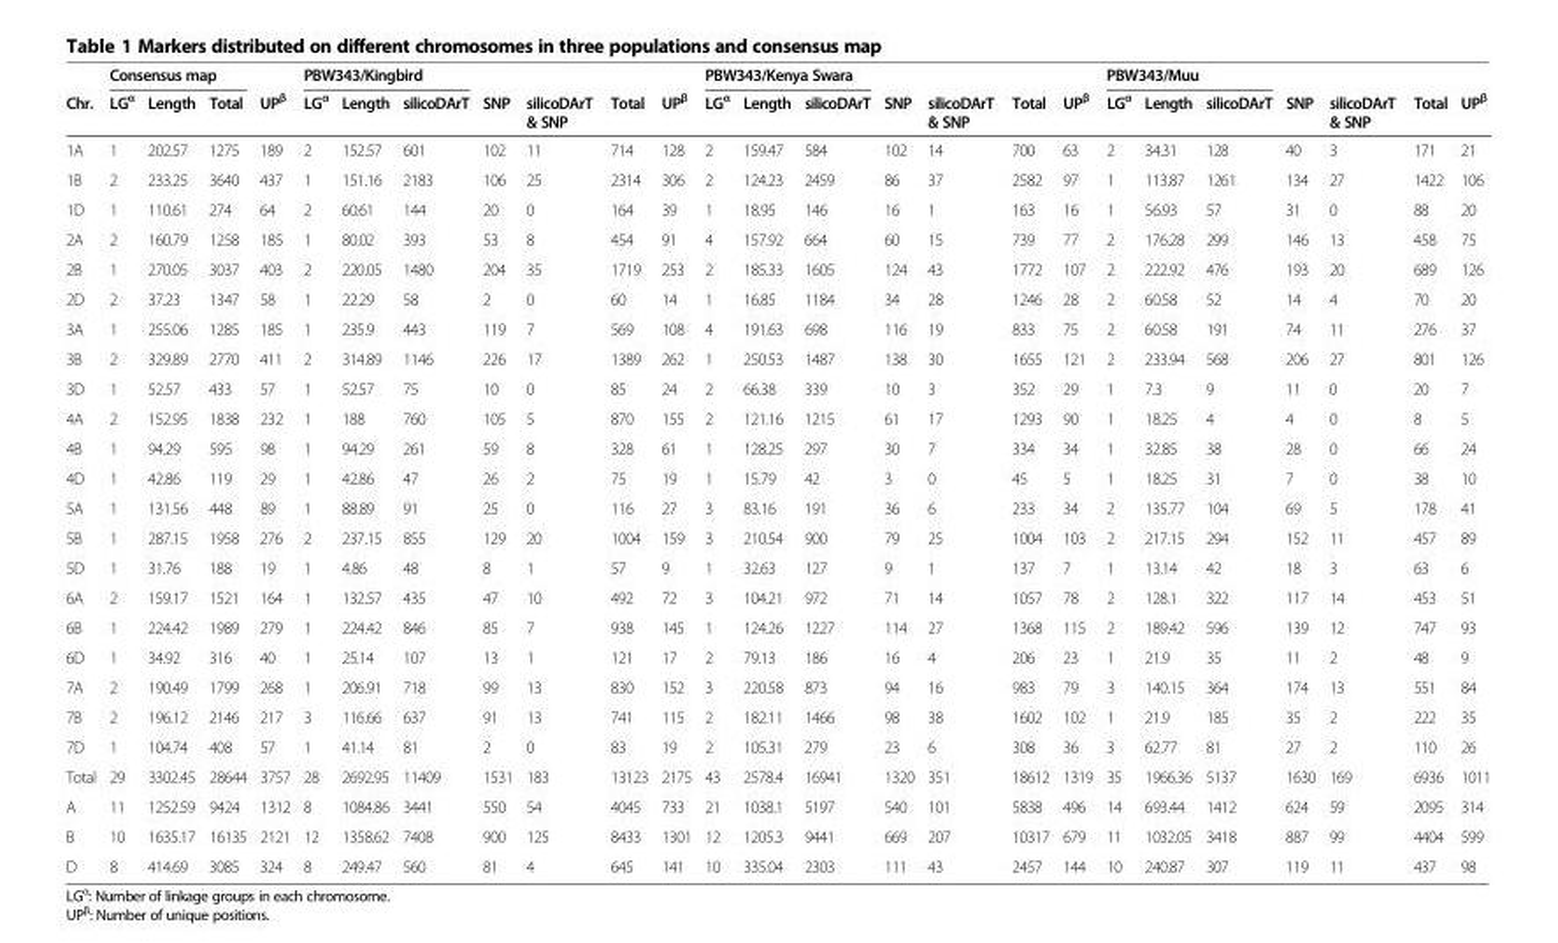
<table><thead><tr><td rowspan="2">Chr.</td><td colspan="3">Consensus map</td><td rowspan="2">UP<sup>β</sup></td><td colspan="3">PBW343/Kingbird</td><td rowspan="2">SNP</td><td rowspan="2">silicoDArT &amp; SNP</td><td rowspan="2">Total</td><td rowspan="2">UP<sup>β</sup></td><td colspan="3">PBW343/Kenya Swara</td><td rowspan="2">SNP</td><td rowspan="2">silicoDArT &amp; SNP</td><td rowspan="2">Total</td><td rowspan="2">UP<sup>β</sup></td><td colspan="3">PBW343/Muu</td><td rowspan="2">SNP</td><td rowspan="2">silicoDArT &amp; SNP</td><td rowspan="2">Total</td><td rowspan="2">UP<sup>β</sup></td></tr><tr><td>LG<sup>α</sup></td><td>Length</td><td>Total</td><td>LG<sup>α</sup></td><td>Length</td><td>silicoDArT</td><td>LG<sup>α</sup></td><td>Length</td><td>silicoDArT</td><td>LG<sup>α</sup></td><td>Length</td><td>silicoDArT</td></tr></thead><tbody><tr><td>1A</td><td>1</td><td>202.57</td><td>1275</td><td>189</td><td>2</td><td>152.57</td><td>601</td><td>102</td><td>11</td><td>714</td><td>128</td><td>2</td><td>159.47</td><td>584</td><td>102</td><td>14</td><td>700</td><td>63</td><td>2</td><td>34.31</td><td>128</td><td>40</td><td>3</td><td>171</td><td>21</td></tr><tr><td>1B</td><td>2</td><td>233.25</td><td>3640</td><td>437</td><td>1</td><td>151.16</td><td>2183</td><td>106</td><td>25</td><td>2314</td><td>306</td><td>2</td><td>124.23</td><td>2459</td><td>86</td><td>37</td><td>2582</td><td>97</td><td>1</td><td>113.87</td><td>1261</td><td>134</td><td>27</td><td>1422</td><td>106</td></tr><tr><td>1D</td><td>1</td><td>110.61</td><td>274</td><td>64</td><td>2</td><td>60.61</td><td>144</td><td>20</td><td>0</td><td>164</td><td>39</td><td>1</td><td>18.95</td><td>146</td><td>16</td><td>1</td><td>163</td><td>16</td><td>1</td><td>56.93</td><td>57</td><td>31</td><td>0</td><td>88</td><td>20</td></tr><tr><td>2A</td><td>2</td><td>160.79</td><td>1258</td><td>185</td><td>1</td><td>80.02</td><td>393</td><td>53</td><td>8</td><td>454</td><td>91</td><td>4</td><td>157.92</td><td>664</td><td>60</td><td>15</td><td>739</td><td>77</td><td>2</td><td>176.28</td><td>299</td><td>146</td><td>13</td><td>458</td><td>75</td></tr><tr><td>2B</td><td>1</td><td>270.05</td><td>3037</td><td>403</td><td>2</td><td>220.05</td><td>1480</td><td>204</td><td>35</td><td>1719</td><td>253</td><td>2</td><td>185.33</td><td>1605</td><td>124</td><td>43</td><td>1772</td><td>107</td><td>2</td><td>222.92</td><td>476</td><td>193</td><td>20</td><td>689</td><td>126</td></tr><tr><td>2D</td><td>2</td><td>37.23</td><td>1347</td><td>58</td><td>1</td><td>22.29</td><td>58</td><td>2</td><td>0</td><td>60</td><td>14</td><td>1</td><td>16.85</td><td>1184</td><td>34</td><td>28</td><td>1246</td><td>28</td><td>2</td><td>60.58</td><td>52</td><td>14</td><td>4</td><td>70</td><td>20</td></tr><tr><td>3A</td><td>1</td><td>255.06</td><td>1285</td><td>185</td><td>1</td><td>235.9</td><td>443</td><td>119</td><td>7</td><td>569</td><td>108</td><td>4</td><td>191.63</td><td>698</td><td>116</td><td>19</td><td>833</td><td>75</td><td>2</td><td>60.58</td><td>191</td><td>74</td><td>11</td><td>276</td><td>37</td></tr><tr><td>3B</td><td>2</td><td>329.89</td><td>2770</td><td>411</td><td>2</td><td>314.89</td><td>1146</td><td>226</td><td>17</td><td>1389</td><td>262</td><td>1</td><td>250.53</td><td>1487</td><td>138</td><td>30</td><td>1655</td><td>121</td><td>2</td><td>233.94</td><td>568</td><td>206</td><td>27</td><td>801</td><td>126</td></tr><tr><td>3D</td><td>1</td><td>52.57</td><td>433</td><td>57</td><td>1</td><td>52.57</td><td>75</td><td>10</td><td>0</td><td>85</td><td>24</td><td>2</td><td>66.38</td><td>339</td><td>10</td><td>3</td><td>352</td><td>29</td><td>1</td><td>7.3</td><td>9</td><td>11</td><td>0</td><td>20</td><td>7</td></tr><tr><td>4A</td><td>2</td><td>152.95</td><td>1838</td><td>232</td><td>1</td><td>188</td><td>760</td><td>105</td><td>5</td><td>870</td><td>155</td><td>2</td><td>121.16</td><td>1215</td><td>61</td><td>17</td><td>1293</td><td>90</td><td>1</td><td>18.25</td><td>4</td><td>4</td><td>0</td><td>8</td><td>5</td></tr><tr><td>4B</td><td>1</td><td>94.29</td><td>595</td><td>98</td><td>1</td><td>94.29</td><td>261</td><td>59</td><td>8</td><td>328</td><td>61</td><td>1</td><td>128.25</td><td>297</td><td>30</td><td>7</td><td>334</td><td>34</td><td>1</td><td>32.85</td><td>38</td><td>28</td><td>0</td><td>66</td><td>24</td></tr><tr><td>4D</td><td>1</td><td>42.86</td><td>119</td><td>29</td><td>1</td><td>42.86</td><td>47</td><td>26</td><td>2</td><td>75</td><td>19</td><td>1</td><td>15.79</td><td>42</td><td>3</td><td>0</td><td>45</td><td>5</td><td>1</td><td>18.25</td><td>31</td><td>7</td><td>0</td><td>38</td><td>10</td></tr><tr><td>5A</td><td>1</td><td>131.56</td><td>448</td><td>89</td><td>1</td><td>88.89</td><td>91</td><td>25</td><td>0</td><td>116</td><td>27</td><td>3</td><td>83.16</td><td>191</td><td>36</td><td>6</td><td>233</td><td>34</td><td>2</td><td>135.77</td><td>104</td><td>69</td><td>5</td><td>178</td><td>41</td></tr><tr><td>5B</td><td>1</td><td>287.15</td><td>1958</td><td>276</td><td>2</td><td>237.15</td><td>855</td><td>129</td><td>20</td><td>1004</td><td>159</td><td>3</td><td>210.54</td><td>900</td><td>79</td><td>25</td><td>1004</td><td>103</td><td>2</td><td>217.15</td><td>294</td><td>152</td><td>11</td><td>457</td><td>89</td></tr><tr><td>5D</td><td>1</td><td>31.76</td><td>188</td><td>19</td><td>1</td><td>4.86</td><td>48</td><td>8</td><td>1</td><td>57</td><td>9</td><td>1</td><td>32.63</td><td>127</td><td>9</td><td>1</td><td>137</td><td>7</td><td>1</td><td>13.14</td><td>42</td><td>18</td><td>3</td><td>63</td><td>6</td></tr><tr><td>6A</td><td>2</td><td>159.17</td><td>1521</td><td>164</td><td>1</td><td>132.57</td><td>435</td><td>47</td><td>10</td><td>492</td><td>72</td><td>3</td><td>104.21</td><td>972</td><td>71</td><td>14</td><td>1057</td><td>78</td><td>2</td><td>128.1</td><td>322</td><td>117</td><td>14</td><td>453</td><td>51</td></tr><tr><td>6B</td><td>1</td><td>224.42</td><td>1989</td><td>279</td><td>1</td><td>224.42</td><td>846</td><td>85</td><td>7</td><td>938</td><td>145</td><td>1</td><td>124.26</td><td>1227</td><td>114</td><td>27</td><td>1368</td><td>115</td><td>2</td><td>189.42</td><td>596</td><td>139</td><td>12</td><td>747</td><td>93</td></tr><tr><td>6D</td><td>1</td><td>34.92</td><td>316</td><td>40</td><td>1</td><td>25.14</td><td>107</td><td>13</td><td>1</td><td>121</td><td>17</td><td>2</td><td>79.13</td><td>186</td><td>16</td><td>4</td><td>206</td><td>23</td><td>1</td><td>21.9</td><td>35</td><td>11</td><td>2</td><td>48</td><td>9</td></tr><tr><td>7A</td><td>2</td><td>190.49</td><td>1799</td><td>268</td><td>1</td><td>206.91</td><td>718</td><td>99</td><td>13</td><td>830</td><td>152</td><td>3</td><td>220.58</td><td>873</td><td>94</td><td>16</td><td>983</td><td>79</td><td>3</td><td>140.15</td><td>364</td><td>174</td><td>13</td><td>551</td><td>84</td></tr><tr><td>7B</td><td>2</td><td>196.12</td><td>2146</td><td>217</td><td>3</td><td>116.66</td><td>637</td><td>91</td><td>13</td><td>741</td><td>115</td><td>2</td><td>182.11</td><td>1466</td><td>98</td><td>38</td><td>1602</td><td>102</td><td>1</td><td>21.9</td><td>185</td><td>35</td><td>2</td><td>222</td><td>35</td></tr><tr><td>7D</td><td>1</td><td>104.74</td><td>408</td><td>57</td><td>1</td><td>41.14</td><td>81</td><td>2</td><td>0</td><td>83</td><td>19</td><td>2</td><td>105.31</td><td>279</td><td>23</td><td>6</td><td>308</td><td>36</td><td>3</td><td>62.77</td><td>81</td><td>27</td><td>2</td><td>110</td><td>26</td></tr><tr><td>Total</td><td>29</td><td>3302.45</td><td>28644</td><td>3757</td><td>28</td><td>2692.95</td><td>11409</td><td>1531</td><td>183</td><td>13123</td><td>2175</td><td>43</td><td>2578.4</td><td>16941</td><td>1320</td><td>351</td><td>18612</td><td>1319</td><td>35</td><td>1966.36</td><td>5137</td><td>1630</td><td>169</td><td>6936</td><td>1011</td></tr><tr><td>A</td><td>11</td><td>1252.59</td><td>9424</td><td>1312</td><td>8</td><td>1084.86</td><td>3441</td><td>550</td><td>54</td><td>4045</td><td>733</td><td>21</td><td>1038.1</td><td>5197</td><td>540</td><td>101</td><td>5838</td><td>496</td><td>14</td><td>693.44</td><td>1412</td><td>624</td><td>59</td><td>2095</td><td>314</td></tr><tr><td>B</td><td>10</td><td>1635.17</td><td>16135</td><td>2121</td><td>12</td><td>1358.62</td><td>7408</td><td>900</td><td>125</td><td>8433</td><td>1301</td><td>12</td><td>1205.3</td><td>9441</td><td>669</td><td>207</td><td>10317</td><td>679</td><td>11</td><td>1032.05</td><td>3418</td><td>887</td><td>99</td><td>4404</td><td>599</td></tr><tr><td>D</td><td>8</td><td>414.69</td><td>3085</td><td>324</td><td>8</td><td>249.47</td><td>560</td><td>81</td><td>4</td><td>645</td><td>141</td><td>10</td><td>335.04</td><td>2303</td><td>111</td><td>43</td><td>2457</td><td>144</td><td>10</td><td>240.87</td><td>307</td><td>119</td><td>11</td><td>437</td><td>98</td></tr></tbody></table>